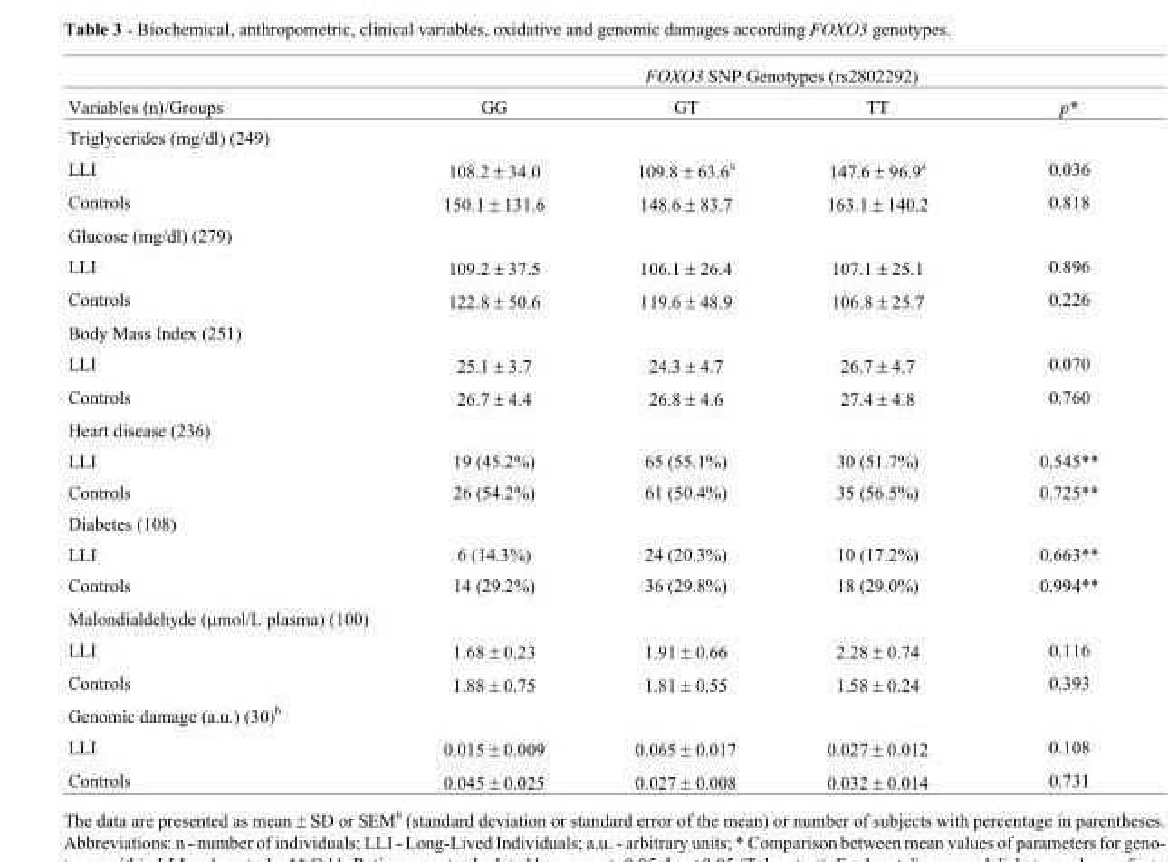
<table><thead><tr><td rowspan="2">Variables (n)/Groups</td><td colspan="4">FOXO3 SNP Genotypes (rs2802292)</td></tr><tr><td>GG</td><td>GT</td><td>TT</td><td>p*</td></tr></thead><tbody><tr><td colspan="5">Triglycerides (mg/dl) (249)</td></tr><tr><td>LLI</td><td>108.2 ± 34.0</td><td>109.8 ± 63.6<sup>a</sup></td><td>147.6 ± 96.9<sup>a</sup></td><td>0.036</td></tr><tr><td>Controls</td><td>150.1 ± 131.6</td><td>148.6 ± 83.7</td><td>163.1 ± 140.2</td><td>0.818</td></tr><tr><td colspan="5">Glucose (mg/dl) (279)</td></tr><tr><td>LLI</td><td>109.2 ± 37.5</td><td>106.1 ± 26.4</td><td>107.1 ± 25.1</td><td>0.896</td></tr><tr><td>Controls</td><td>122.8 ± 50.6</td><td>119.6 ± 48.9</td><td>106.8 ± 25.7</td><td>0.226</td></tr><tr><td colspan="5">Body Mass Index (251)</td></tr><tr><td>LLI</td><td>25.1 ± 3.7</td><td>24.3 ± 4.7</td><td>26.7 ± 4.7</td><td>0.070</td></tr><tr><td>Controls</td><td>26.7 ± 4.4</td><td>26.8 ± 4.6</td><td>27.4 ± 4.8</td><td>0.760</td></tr><tr><td colspan="5">Heart disease (236)</td></tr><tr><td>LLI</td><td>19 (45.2%)</td><td>65 (55.1%)</td><td>30 (51.7%)</td><td>0.545**</td></tr><tr><td>Controls</td><td>26 (54.2%)</td><td>61 (50.4%)</td><td>35 (56.5%)</td><td>0.725**</td></tr><tr><td colspan="5">Diabetes (108)</td></tr><tr><td>LLI</td><td>6 (14.3%)</td><td>24 (20.3%)</td><td>10 (17.2%)</td><td>0.663**</td></tr><tr><td>Controls</td><td>14 (29.2%)</td><td>36 (29.8%)</td><td>18 (29.0%)</td><td>0.994**</td></tr><tr><td colspan="5">Malondialdehyde (μmol/L plasma) (100)</td></tr><tr><td>LLI</td><td>1.68 ± 0.23</td><td>1.91 ± 0.66</td><td>2.28 ± 0.74</td><td>0.116</td></tr><tr><td>Controls</td><td>1.88 ± 0.75</td><td>1.81 ± 0.55</td><td>1.58 ± 0.24</td><td>0.393</td></tr><tr><td colspan="5">Genomic damage (a.u.) (30)<sup>b</sup></td></tr><tr><td>LLI</td><td>0.015 ± 0.009</td><td>0.065 ± 0.017</td><td>0.027 ± 0.012</td><td>0.108</td></tr><tr><td>Controls</td><td>0.045 ± 0.025</td><td>0.027 ± 0.008</td><td>0.032 ± 0.014</td><td>0.731</td></tr></tbody></table>